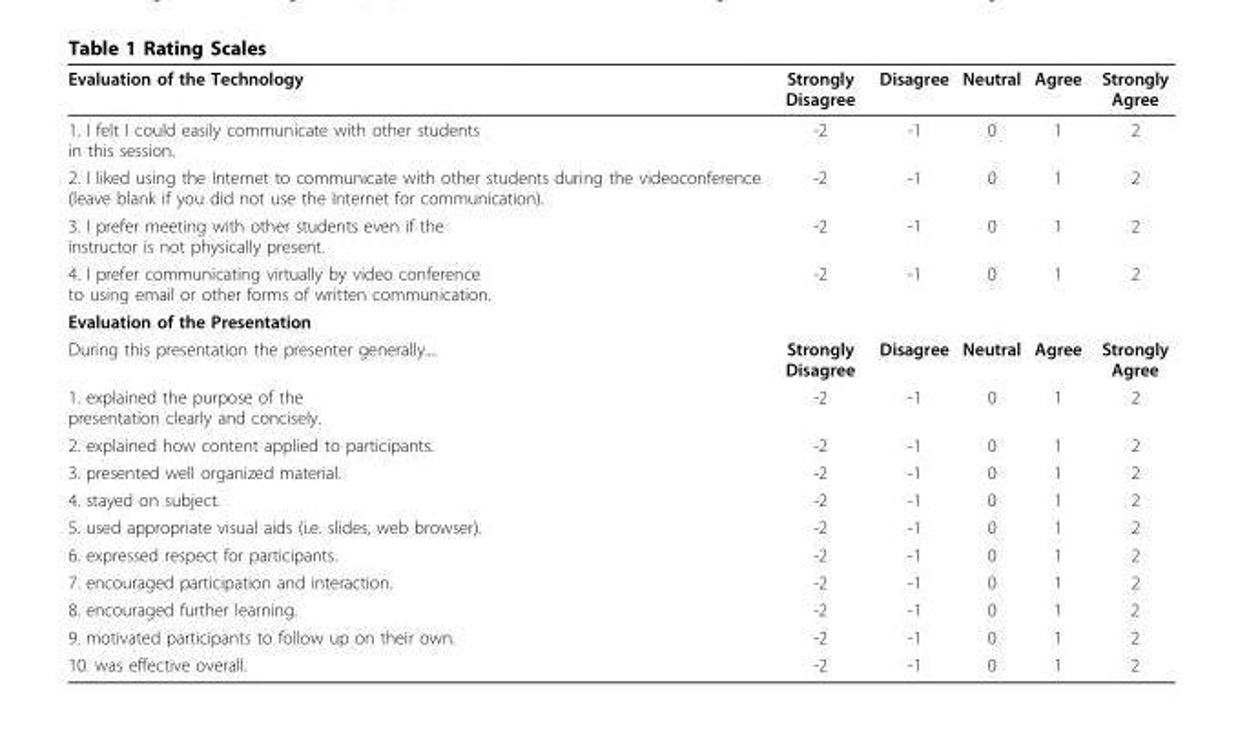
<table><thead><tr><td>Evaluation of the Technology</td><td>Strongly Disagree</td><td>Disagree</td><td>Neutral</td><td>Agree</td><td>Strongly Agree</td></tr></thead><tbody><tr><td>1. I felt I could easily communicate with other students in this session.</td><td>-2</td><td>-1</td><td>0</td><td>1</td><td>2</td></tr><tr><td>2. I liked using the Internet to communicate with other students during the videoconference (leave blank if you did not use the Internet for communication).</td><td>-2</td><td>-1</td><td>0</td><td>1</td><td>2</td></tr><tr><td>3. I prefer meeting with other students even if the instructor is not physically present.</td><td>-2</td><td>-1</td><td>0</td><td>1</td><td>2</td></tr><tr><td>4. I prefer communicating virtually by video conference to using email or other forms of written communication.</td><td>-2</td><td>-1</td><td>0</td><td>1</td><td>2</td></tr><tr><td colspan="6">Evaluation of the Presentation</td></tr><tr><td>During this presentation the presenter generally....</td><td>Strongly Disagree</td><td>Disagree</td><td>Neutral</td><td>Agree</td><td>Strongly Agree</td></tr><tr><td>1. explained the purpose of the presentation clearly and concisely.</td><td>-2</td><td>-1</td><td>0</td><td>1</td><td>2</td></tr><tr><td>2. explained how content applied to participants.</td><td>-2</td><td>-1</td><td>0</td><td>1</td><td>2</td></tr><tr><td>3. presented well organized material.</td><td>-2</td><td>-1</td><td>0</td><td>1</td><td>2</td></tr><tr><td>4. stayed on subject.</td><td>-2</td><td>-1</td><td>0</td><td>1</td><td>2</td></tr><tr><td>5. used appropriate visual aids (i.e. slides, web browser).</td><td>-2</td><td>-1</td><td>0</td><td>1</td><td>2</td></tr><tr><td>6. expressed respect for participants.</td><td>-2</td><td>-1</td><td>0</td><td>1</td><td>2</td></tr><tr><td>7. encouraged participation and interaction.</td><td>-2</td><td>-1</td><td>0</td><td>1</td><td>2</td></tr><tr><td>8. encouraged further learning.</td><td>-2</td><td>-1</td><td>0</td><td>1</td><td>2</td></tr><tr><td>9. motivated participants to follow up on their own.</td><td>-2</td><td>-1</td><td>0</td><td>1</td><td>2</td></tr><tr><td>10. was effective overall.</td><td>-2</td><td>-1</td><td>0</td><td>1</td><td>2</td></tr></tbody></table>